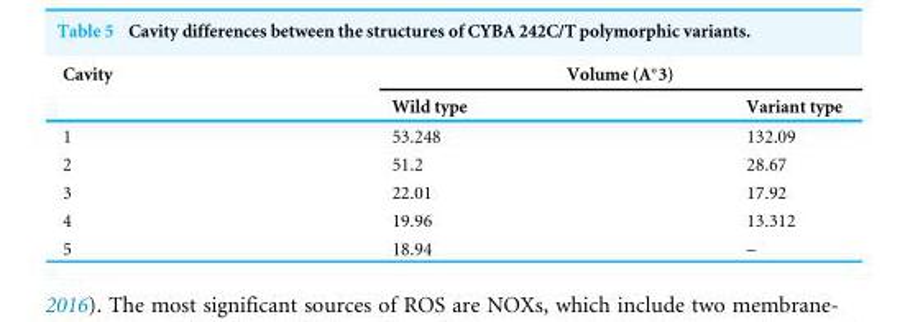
<table><thead><tr><td rowspan="2">Cavity</td><td colspan="2">Volume (A◦3)</td></tr><tr><td>Wild type</td><td>Variant type</td></tr></thead><tbody><tr><td>1</td><td>53.248</td><td>132.09</td></tr><tr><td>2</td><td>51.2</td><td>28.67</td></tr><tr><td>3</td><td>22.01</td><td>17.92</td></tr><tr><td>4</td><td>19.96</td><td>13.312</td></tr><tr><td>5</td><td>18.94</td><td>–</td></tr></tbody></table>